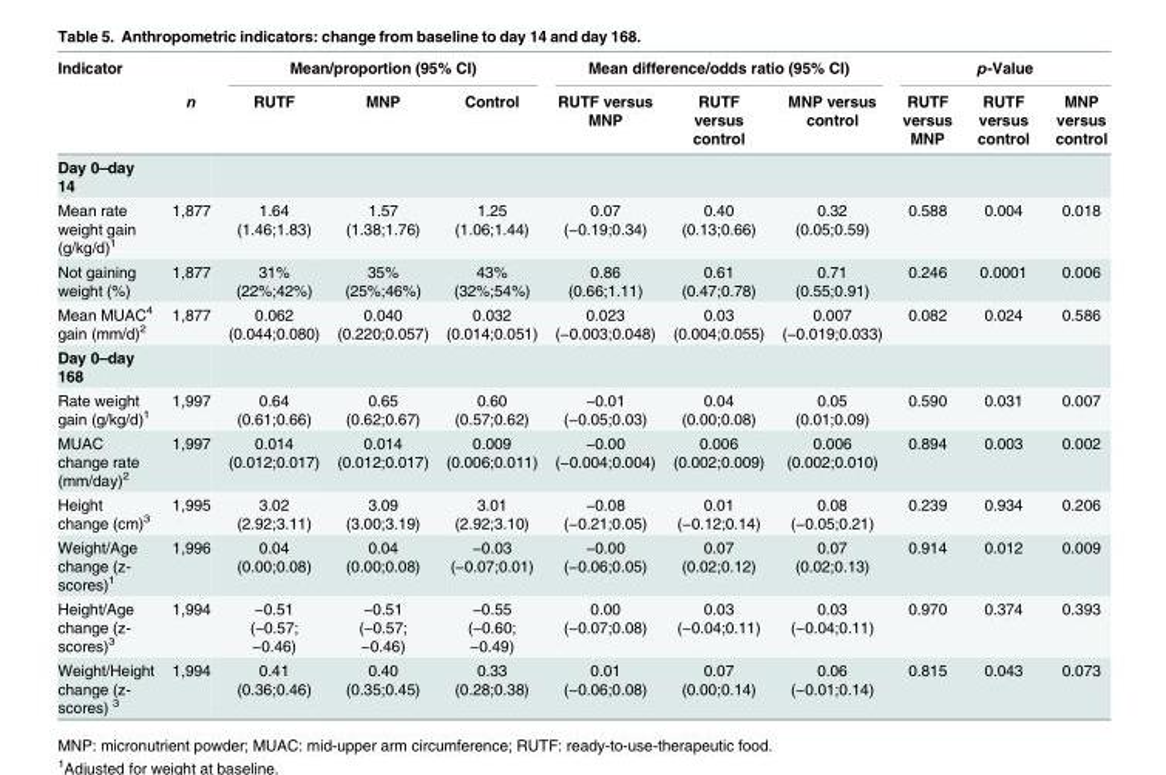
<table><thead><tr><td rowspan="2">Indicator</td><td rowspan="2">n</td><td colspan="3">Mean/proportion (95% CI)</td><td colspan="3">Mean difference/odds ratio (95% CI)</td><td colspan="3">p-Value</td></tr><tr><td>RUTF</td><td>MNP</td><td>Control</td><td>RUTF versus MNP</td><td>RUTF versus control</td><td>MNP versus control</td><td>RUTF versus MNP</td><td>RUTF versus control</td><td>MNP versus control</td></tr></thead><tbody><tr><td colspan="11">Day 0–day 14</td></tr><tr><td>Mean rate weight gain (g/kg/d)<sup>1</sup></td><td>1,877</td><td>1.64 (1.46;1.83)</td><td>1.57 (1.38;1.76)</td><td>1.25 (1.06;1.44)</td><td>0.07 (−0.19;0.34)</td><td>0.40 (0.13;0.66)</td><td>0.32 (0.05;0.59)</td><td>0.588</td><td>0.004</td><td>0.018</td></tr><tr><td>Not gaining weight (%)</td><td>1,877</td><td>31% (22%;42%)</td><td>35% (25%;46%)</td><td>43% (32%;54%)</td><td>0.86 (0.66;1.11)</td><td>0.61 (0.47;0.78)</td><td>0.71 (0.55;0.91)</td><td>0.246</td><td>0.0001</td><td>0.006</td></tr><tr><td>Mean MUAC<sup>4</sup> gain (mm/d)<sup>2</sup></td><td>1,877</td><td>0.062 (0.044;0.080)</td><td>0.040 (0.220;0.057)</td><td>0.032 (0.014;0.051)</td><td>0.023 (−0.003;0.048)</td><td>0.03 (0.004;0.055)</td><td>0.007 (−0.019;0.033)</td><td>0.082</td><td>0.024</td><td>0.586</td></tr><tr><td colspan="11">Day 0–day 168</td></tr><tr><td>Rate weight gain (g/kg/d)<sup>1</sup></td><td>1,997</td><td>0.64 (0.61;0.66)</td><td>0.65 (0.62;0.67)</td><td>0.60 (0.57;0.62)</td><td>−0.01 (−0.05;0.03)</td><td>0.04 (0.00;0.08)</td><td>0.05 (0.01;0.09)</td><td>0.590</td><td>0.031</td><td>0.007</td></tr><tr><td>MUAC change rate (mm/day)<sup>2</sup></td><td>1,997</td><td>0.014 (0.012;0.017)</td><td>0.014 (0.012;0.017)</td><td>0.009 (0.006;0.011)</td><td>−0.00 (−0.004;0.004)</td><td>0.006 (0.002;0.009)</td><td>0.006 (0.002;0.010)</td><td>0.894</td><td>0.003</td><td>0.002</td></tr><tr><td>Height change (cm)<sup>3</sup></td><td>1,995</td><td>3.02 (2.92;3.11)</td><td>3.09 (3.00;3.19)</td><td>3.01 (2.92;3.10)</td><td>−0.08 (−0.21;0.05)</td><td>0.01 (−0.12;0.14)</td><td>0.08 (−0.05;0.21)</td><td>0.239</td><td>0.934</td><td>0.206</td></tr><tr><td>Weight/Age change (z- scores)<sup>1</sup></td><td>1,996</td><td>0.04 (0.00;0.08)</td><td>0.04 (0.00;0.08)</td><td>−0.03 (−0.07;0.01)</td><td>−0.00 (−0.06;0.05)</td><td>0.07 (0.02;0.12)</td><td>0.07 (0.02;0.13)</td><td>0.914</td><td>0.012</td><td>0.009</td></tr><tr><td>Height/Age change (z- scores)<sup>3</sup></td><td>1,994</td><td>−0.51 (−0.57; −0.46)</td><td>−0.51 (−0.57; −0.46)</td><td>−0.55 (−0.60; −0.49)</td><td>0.00 (−0.07;0.08)</td><td>0.03 (−0.04;0.11)</td><td>0.03 (−0.04;0.11)</td><td>0.970</td><td>0.374</td><td>0.393</td></tr><tr><td>Weight/Height change (z- scores) <sup>3</sup></td><td>1,994</td><td>0.41 (0.36;0.46)</td><td>0.40 (0.35;0.45)</td><td>0.33 (0.28;0.38)</td><td>0.01 (−0.06;0.08)</td><td>0.07 (0.00;0.14)</td><td>0.06 (−0.01;0.14)</td><td>0.815</td><td>0.043</td><td>0.073</td></tr></tbody></table>